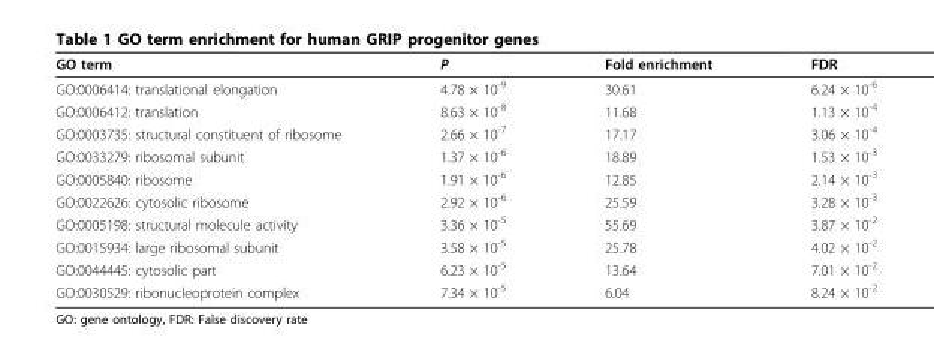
<table><thead><tr><td>GO term</td><td>P</td><td>Fold enrichment</td><td>FDR</td></tr></thead><tbody><tr><td>GO:0006414: translational elongation</td><td>4.78 × 10<sup>-9</sup></td><td>30.61</td><td>6.24 × 10<sup>-6</sup></td></tr><tr><td>GO:0006412: translation</td><td>8.63 × 10<sup>-8</sup></td><td>11.68</td><td>1.13 × 10<sup>-4</sup></td></tr><tr><td>GO:0003735: structural constituent of ribosome</td><td>2.66 × 10<sup>-7</sup></td><td>17.17</td><td>3.06 × 10<sup>-4</sup></td></tr><tr><td>GO:0033279: ribosomal subunit</td><td>1.37 × 10<sup>-6</sup></td><td>18.89</td><td>1.53 × 10<sup>-3</sup></td></tr><tr><td>GO:0005840: ribosome</td><td>1.91 × 10<sup>-6</sup></td><td>12.85</td><td>2.14 × 10<sup>-3</sup></td></tr><tr><td>GO:0022626: cytosolic ribosome</td><td>2.92 × 10<sup>-6</sup></td><td>25.59</td><td>3.28 × 10<sup>-3</sup></td></tr><tr><td>GO:0005198: structural molecule activity</td><td>3.36 × 10<sup>-5</sup></td><td>55.69</td><td>3.87 × 10<sup>-2</sup></td></tr><tr><td>GO:0015934: large ribosomal subunit</td><td>3.58 × 10<sup>-5</sup></td><td>25.78</td><td>4.02 × 10<sup>-2</sup></td></tr><tr><td>GO:0044445: cytosolic part</td><td>6.23 × 10<sup>-5</sup></td><td>13.64</td><td>7.01 × 10<sup>-2</sup></td></tr><tr><td>GO:0030529: ribonucleoprotein complex</td><td>7.34 × 10<sup>-5</sup></td><td>6.04</td><td>8.24 × 10<sup>-2</sup></td></tr></tbody></table>